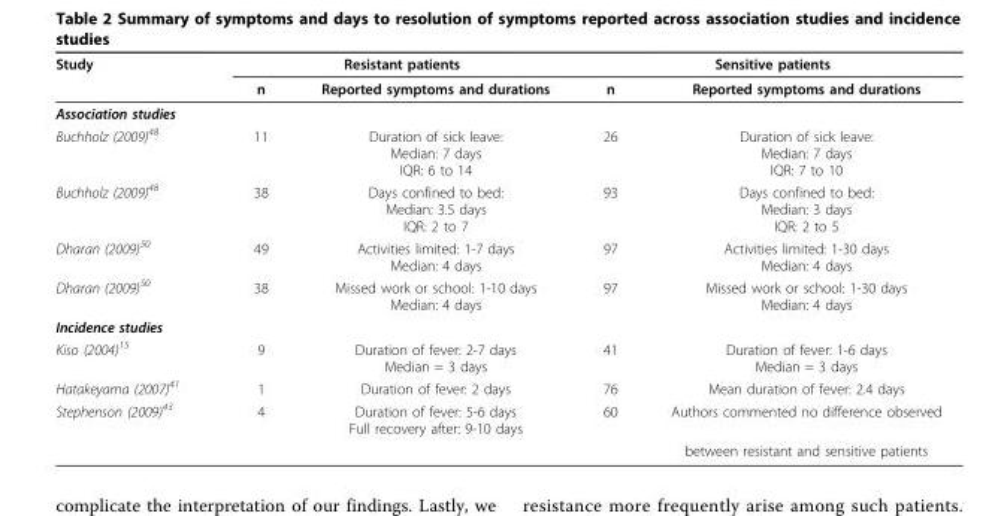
<table><thead><tr><td rowspan="2">Study</td><td colspan="2">Resistant patients</td><td colspan="2">Sensitive patients</td></tr><tr><td>n</td><td>Reported symptoms and durations</td><td>n</td><td>Reported symptoms and durations</td></tr></thead><tbody><tr><td colspan="5">Association studies</td></tr><tr><td>Buchholz (2009)<sup>48</sup></td><td>11</td><td>Duration of sick leave: Median: 7 days IQR: 6 to 14</td><td>26</td><td>Duration of sick leave: Median: 7 days IQR: 7 to 10</td></tr><tr><td>Buchholz (2009)<sup>48</sup></td><td>38</td><td>Days confined to bed: Median: 3.5 days IQR: 2 to 7</td><td>93</td><td>Days confined to bed: Median: 3 days IQR: 2 to 5</td></tr><tr><td>Dharan (2009)<sup>50</sup></td><td>49</td><td>Activities limited: 1-7 days Median: 4 days</td><td>97</td><td>Activities limited: 1-30 days Median: 4 days</td></tr><tr><td>Dharan (2009)<sup>50</sup></td><td>38</td><td>Missed work or school: 1-10 days Median: 4 days</td><td>97</td><td>Missed work or school: 1-30 days Median: 4 days</td></tr><tr><td colspan="5">Incidence studies</td></tr><tr><td>Kiso (2004)<sup>15</sup></td><td>9</td><td>Duration of fever: 2-7 days Median = 3 days</td><td>41</td><td>Duration of fever: 1-6 days Median = 3 days</td></tr><tr><td>Hatakeyama (2007)<sup>41</sup></td><td>1</td><td>Duration of fever: 2 days</td><td>76</td><td>Mean duration of fever: 2.4 days</td></tr><tr><td rowspan="2">Stephenson (2009)<sup>43</sup></td><td>4</td><td>Duration of fever: 5-6 days Full recovery after: 9-10 days</td><td>60</td><td>Authors commented no difference observed</td></tr><tr><td></td><td></td><td></td><td>between resistant and sensitive patients</td></tr></tbody></table>